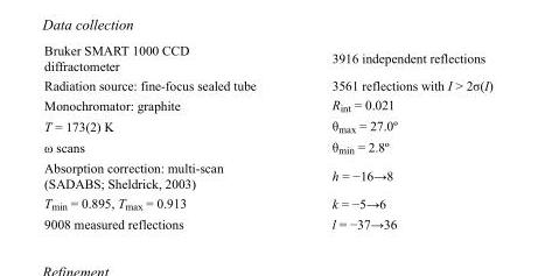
<table><tbody><tr><td>Bruker SMART 1000 CCD diffractometer</td><td>3916 independent reflections</td></tr><tr><td>Radiation source: fine-focus sealed tube</td><td>3561 reflections with I &gt; 2σ(I)</td></tr><tr><td>Monochromator: graphite</td><td>R<sub>int</sub> = 0.021</td></tr><tr><td>T = 173(2) K</td><td>θ<sub>max</sub> = 27.0º</td></tr><tr><td>ω scans</td><td>θ<sub>min</sub> = 2.8º</td></tr><tr><td>Absorption correction: multi-scan (SADABS; Sheldrick, 2003)</td><td>h = −16→8</td></tr><tr><td>T<sub>min</sub> = 0.895, T<sub>max</sub> = 0.913</td><td>k = −5→6</td></tr><tr><td>9008 measured reflections</td><td>l = −37→36</td></tr></tbody></table>